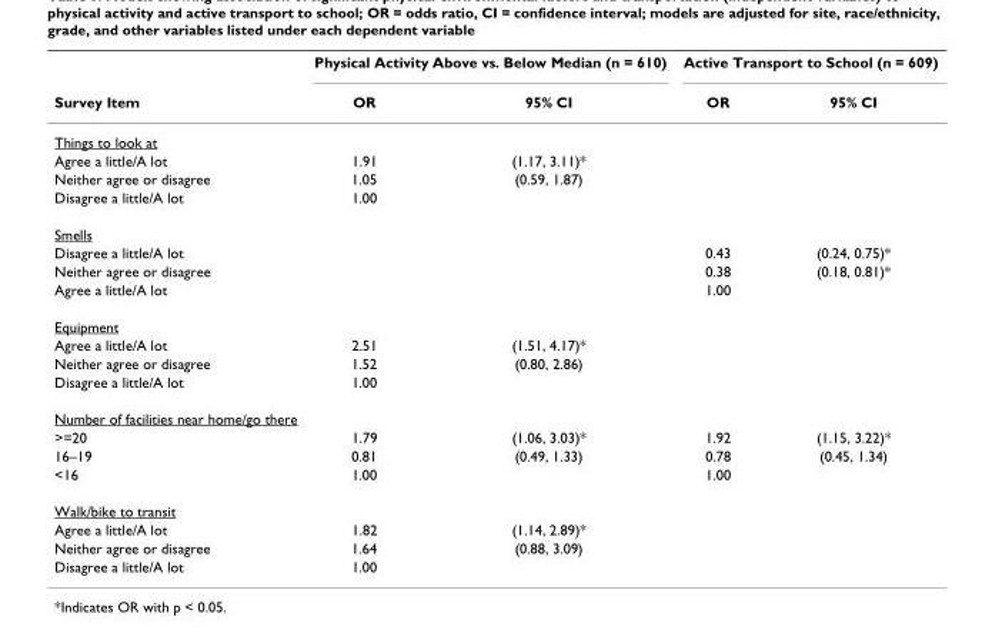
<table><thead><tr><td rowspan="2">Survey Item</td><td colspan="2">Physical Activity Above vs. Below Median (n = 610)</td><td colspan="2">Active Transport to School (n = 609)</td></tr><tr><td>OR</td><td>95% CI</td><td>OR</td><td>95% CI</td></tr></thead><tbody><tr><td colspan="5">Things to look at</td></tr><tr><td>Agree a little/A lot</td><td>1.91</td><td>(1.17, 3.11)*</td><td></td><td></td></tr><tr><td>Neither agree or disagree</td><td>1.05</td><td>(0.59, 1.87)</td><td></td><td></td></tr><tr><td>Disagree a little/A lot</td><td>1.00</td><td></td><td></td><td></td></tr><tr><td colspan="5">Smells</td></tr><tr><td>Disagree a little/A lot</td><td></td><td></td><td>0.43</td><td>(0.24, 0.75)*</td></tr><tr><td>Neither agree or disagree</td><td></td><td></td><td>0.38</td><td>(0.18, 0.81)*</td></tr><tr><td>Agree a little/A lot</td><td></td><td></td><td>1.00</td><td></td></tr><tr><td colspan="5">Equipment</td></tr><tr><td>Agree a little/A lot</td><td>2.51</td><td>(1.51, 4.17)*</td><td></td><td></td></tr><tr><td>Neither agree or disagree</td><td>1.52</td><td>(0.80, 2.86)</td><td></td><td></td></tr><tr><td>Disagree a little/A lot</td><td>1.00</td><td></td><td></td><td></td></tr><tr><td colspan="5">Number of facilities near home/go there</td></tr><tr><td>&gt;=20</td><td>1.79</td><td>(1.06, 3.03)*</td><td>1.92</td><td>(1.15, 3.22)*</td></tr><tr><td>16–19</td><td>0.81</td><td>(0.49, 1.33)</td><td>0.78</td><td>(0.45, 1.34)</td></tr><tr><td>&lt;16</td><td>1.00</td><td></td><td>1.00</td><td></td></tr><tr><td colspan="5">Walk/bike to transit</td></tr><tr><td>Agree a little/A lot</td><td>1.82</td><td>(1.14, 2.89)*</td><td></td><td></td></tr><tr><td>Neither agree or disagree</td><td>1.64</td><td>(0.88, 3.09)</td><td></td><td></td></tr><tr><td>Disagree a little/A lot</td><td>1.00</td><td></td><td></td><td></td></tr></tbody></table>